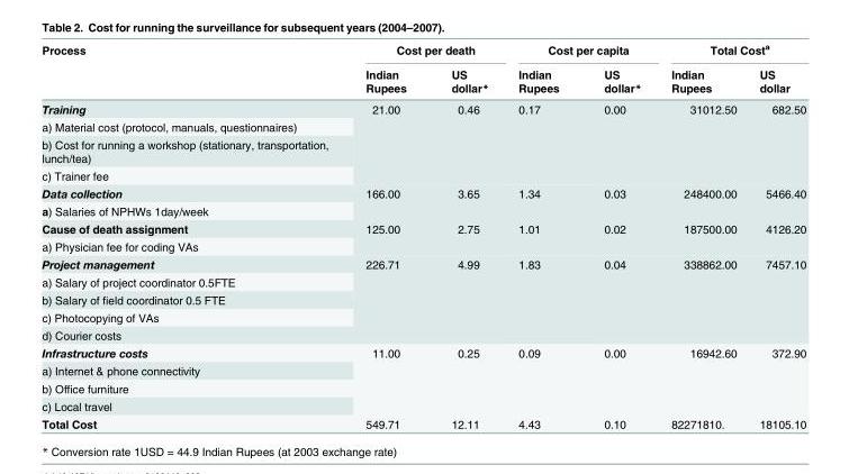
<table><thead><tr><td rowspan="2">Process</td><td colspan="2">Cost per death</td><td colspan="2">Cost per capita</td><td colspan="2">Total Cost<sup>a</sup></td></tr><tr><td>Indian Rupees</td><td>US dollar*</td><td>Indian Rupees</td><td>US dollar*</td><td>Indian Rupees</td><td>US dollar</td></tr></thead><tbody><tr><td>Training</td><td rowspan="4">21.00</td><td rowspan="4">0.46</td><td rowspan="4">0.17</td><td rowspan="4">0.00</td><td rowspan="4">31012.50</td><td rowspan="4">682.50</td></tr><tr><td>a) Material cost (protocol, manuals, questionnaires)</td></tr><tr><td>b) Cost for running a workshop (stationary, transportation, lunch/tea)</td></tr><tr><td>c) Trainer fee</td></tr><tr><td>Data collection</td><td rowspan="2">166.00</td><td rowspan="2">3.65</td><td rowspan="2">1.34</td><td rowspan="2">0.03</td><td rowspan="2">248400.00</td><td rowspan="2">5466.40</td></tr><tr><td>a) Salaries of NPHWs 1day/week</td></tr><tr><td>Cause of death assignment</td><td rowspan="2">125.00</td><td rowspan="2">2.75</td><td rowspan="2">1.01</td><td rowspan="2">0.02</td><td rowspan="2">187500.00</td><td rowspan="2">4126.20</td></tr><tr><td>a) Physician fee for coding VAs</td></tr><tr><td>Project management</td><td rowspan="5">226.71</td><td rowspan="5">4.99</td><td rowspan="5">1.83</td><td rowspan="5">0.04</td><td rowspan="5">338862.00</td><td rowspan="5">7457.10</td></tr><tr><td>a) Salary of project coordinator 0.5FTE</td></tr><tr><td>b) Salary of field coordinator 0.5 FTE</td></tr><tr><td>c) Photocopying of VAs</td></tr><tr><td>d) Courier costs</td></tr><tr><td>Infrastructure costs</td><td rowspan="4">11.00</td><td rowspan="4">0.25</td><td rowspan="4">0.09</td><td rowspan="4">0.00</td><td rowspan="4">16942.60</td><td rowspan="4">372.90</td></tr><tr><td>a) Internet &amp; phone connectivity</td></tr><tr><td>b) Office furniture</td></tr><tr><td>c) Local travel</td></tr><tr><td>Total Cost</td><td>549.71</td><td>12.11</td><td>4.43</td><td>0.10</td><td>82271810.</td><td>18105.10</td></tr></tbody></table>